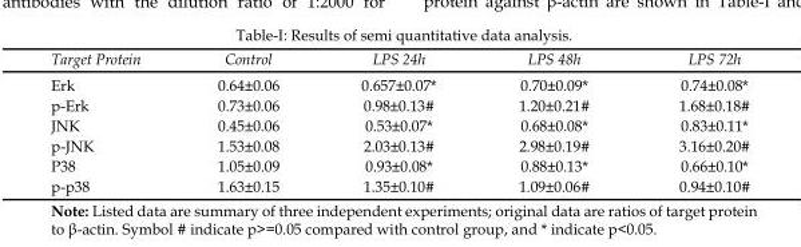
<table><thead><tr><td>Target Protein</td><td>Control</td><td>LPS 24h</td><td>LPS 48h</td><td>LPS 72h</td></tr></thead><tbody><tr><td>Erk</td><td>0.64±0.06</td><td>0.657±0.07*</td><td>0.70±0.09*</td><td>0.74±0.08*</td></tr><tr><td>p-Erk</td><td>0.73±0.06</td><td>0.98±0.13#</td><td>1.20±0.21#</td><td>1.68±0.18#</td></tr><tr><td>JNK</td><td>0.45±0.06</td><td>0.53±0.07*</td><td>0.68±0.08*</td><td>0.83±0.11*</td></tr><tr><td>p-JNK</td><td>1.53±0.08</td><td>2.03±0.13#</td><td>2.98±0.19#</td><td>3.16±0.20#</td></tr><tr><td>P38</td><td>1.05±0.09</td><td>0.93±0.08*</td><td>0.88±0.13*</td><td>0.66±0.10*</td></tr><tr><td>p-p38</td><td>1.63±0.15</td><td>1.35±0.10#</td><td>1.09±0.06#</td><td>0.94±0.10#</td></tr></tbody></table>